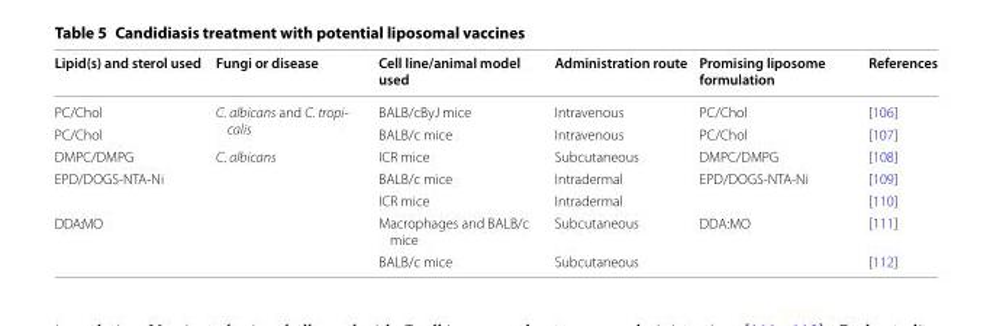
<table><thead><tr><td>Lipid(s) and sterol used</td><td>Fungi or disease</td><td>Cell line/animal model used</td><td>Administration route</td><td>Promising liposome formulation</td><td>References</td></tr></thead><tbody><tr><td>PC/Chol</td><td rowspan="2">C. albicans and C. tropi- calis</td><td>BALB/cByJ mice</td><td>Intravenous</td><td>PC/Chol</td><td>[106]</td></tr><tr><td>PC/Chol</td><td>BALB/c mice</td><td>Intravenous</td><td>PC/Chol</td><td>[107]</td></tr><tr><td>DMPC/DMPG</td><td rowspan="5">C. albicans</td><td>ICR mice</td><td>Subcutaneous</td><td>DMPC/DMPG</td><td>[108]</td></tr><tr><td rowspan="2">EPD/DOGS-NTA-Ni</td><td>BALB/c mice</td><td>Intradermal</td><td rowspan="2">EPD/DOGS-NTA-Ni</td><td>[109]</td></tr><tr><td>ICR mice</td><td>Intradermal</td><td>[110]</td></tr><tr><td rowspan="2">DDA:MO</td><td>Macrophages and BALB/c mice</td><td>Subcutaneous</td><td rowspan="2">DDA:MO</td><td>[111]</td></tr><tr><td>BALB/c mice</td><td>Subcutaneous</td><td>[112]</td></tr></tbody></table>